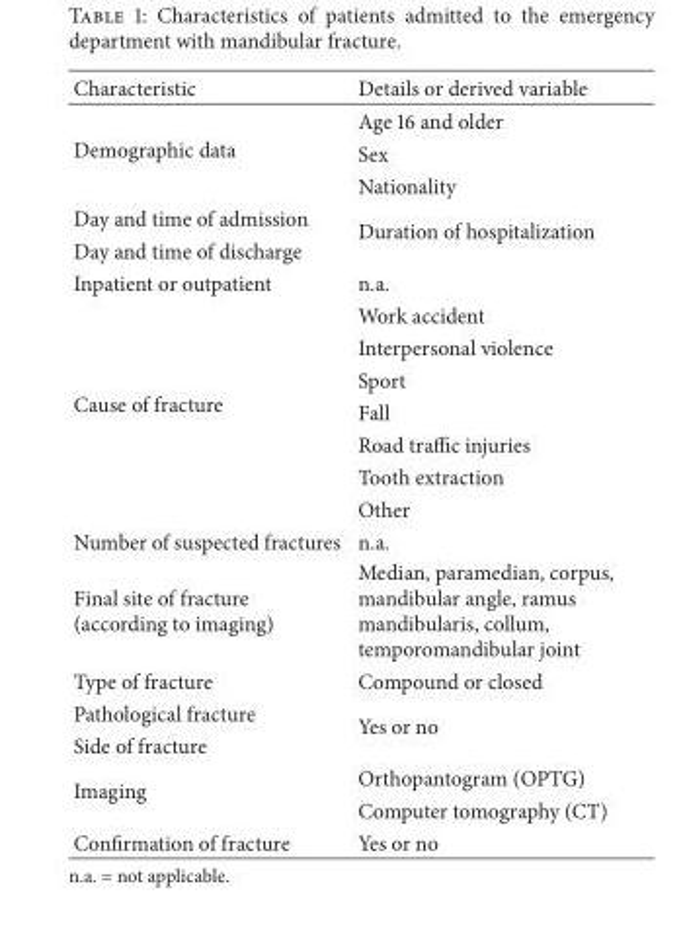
<table><thead><tr><td>Characteristic</td><td>Details or derived variable</td></tr></thead><tbody><tr><td rowspan="3">Demographic data</td><td>Age 16 and older</td></tr><tr><td>Sex</td></tr><tr><td>Nationality</td></tr><tr><td>Day and time of admission</td><td rowspan="2">Duration of hospitalization</td></tr><tr><td>Day and time of discharge</td></tr><tr><td>Inpatient or outpatient</td><td>n.a.</td></tr><tr><td rowspan="7">Cause of fracture</td><td>Work accident</td></tr><tr><td>Interpersonal violence</td></tr><tr><td>Sport</td></tr><tr><td>Fall</td></tr><tr><td>Road traffic injuries</td></tr><tr><td>Tooth extraction</td></tr><tr><td>Other</td></tr><tr><td>Number of suspected fractures</td><td>n.a.</td></tr><tr><td>Final site of fracture (according to imaging)</td><td>Median, paramedian, corpus, mandibular angle, ramus mandibularis, collum, temporomandibular joint</td></tr><tr><td>Type of fracture</td><td>Compound or closed</td></tr><tr><td>Pathological fracture</td><td rowspan="2">Yes or no</td></tr><tr><td>Side of fracture</td></tr><tr><td rowspan="2">Imaging</td><td>Orthopantogram (OPTG)</td></tr><tr><td>Computer tomography (CT)</td></tr><tr><td>Confirmation of fracture</td><td>Yes or no</td></tr></tbody></table>